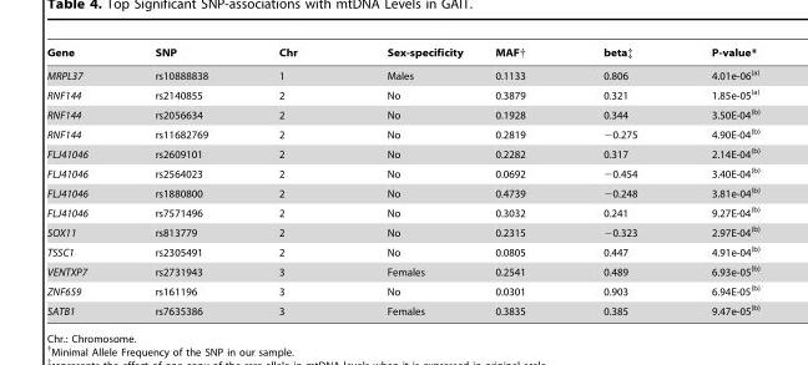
<table><thead><tr><td>Gene</td><td>SNP</td><td>Chr</td><td>Sex-specificity</td><td>MAF†</td><td>beta‡</td><td>P-value*</td></tr></thead><tbody><tr><td>MRPL37</td><td>rs10888838</td><td>1</td><td>Males</td><td>0.1133</td><td>0.806</td><td>4.01e-06(a)</td></tr><tr><td>RNF144</td><td>rs2140855</td><td>2</td><td>No</td><td>0.3879</td><td>0.321</td><td>1.85e-05(a)</td></tr><tr><td>RNF144</td><td>rs2056634</td><td>2</td><td>No</td><td>0.1928</td><td>0.344</td><td>3.50E-04(b)</td></tr><tr><td>RNF144</td><td>rs11682769</td><td>2</td><td>No</td><td>0.2819</td><td>−0.275</td><td>4.90E-04(b)</td></tr><tr><td>FLJ41046</td><td>rs2609101</td><td>2</td><td>No</td><td>0.2282</td><td>0.317</td><td>2.14E-04(b)</td></tr><tr><td>FLJ41046</td><td>rs2564023</td><td>2</td><td>No</td><td>0.0692</td><td>−0.454</td><td>3.40E-04(b)</td></tr><tr><td>FLJ41046</td><td>rs1880800</td><td>2</td><td>No</td><td>0.4739</td><td>−0.248</td><td>3.81e-04(b)</td></tr><tr><td>FLJ41046</td><td>rs7571496</td><td>2</td><td>No</td><td>0.3032</td><td>0.241</td><td>9.27E-04(b)</td></tr><tr><td>SOX11</td><td>rs813779</td><td>2</td><td>No</td><td>0.2315</td><td>−0.323</td><td>2.97E-04(b)</td></tr><tr><td>TSSC1</td><td>rs2305491</td><td>2</td><td>No</td><td>0.0805</td><td>0.447</td><td>4.91e-04(b)</td></tr><tr><td>VENTXP7</td><td>rs2731943</td><td>3</td><td>Females</td><td>0.2541</td><td>0.489</td><td>6.93e-05(b)</td></tr><tr><td>ZNF659</td><td>rs161196</td><td>3</td><td>No</td><td>0.0301</td><td>0.903</td><td>6.94E-05(b)</td></tr><tr><td>SATB1</td><td>rs7635386</td><td>3</td><td>Females</td><td>0.3835</td><td>0.385</td><td>9.47e-05(b)</td></tr></tbody></table>